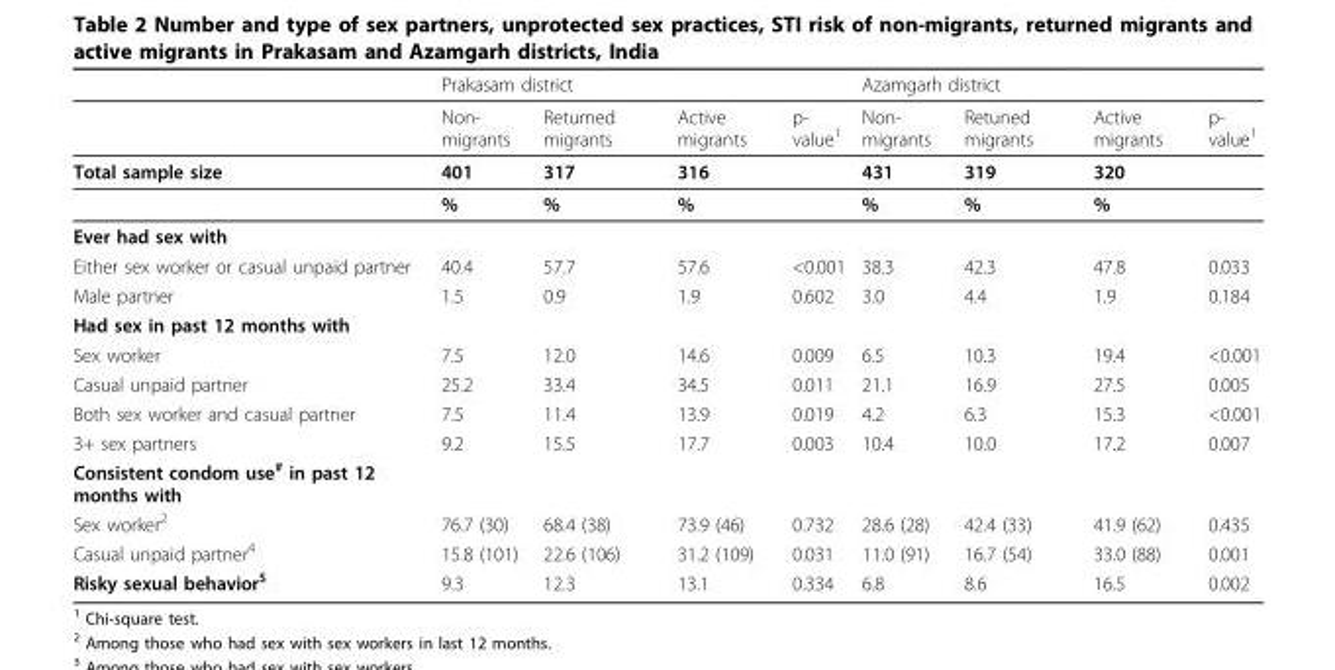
<table><thead><tr><td rowspan="2"></td><td colspan="4">Prakasam district</td><td colspan="4">Azamgarh district</td></tr><tr><td>Non- migrants</td><td>Returned migrants</td><td>Active migrants</td><td>p- value<sup>1</sup></td><td>Non- migrants</td><td>Retuned migrants</td><td>Active migrants</td><td>p- value<sup>1</sup></td></tr></thead><tbody><tr><td rowspan="2">Total sample size</td><td>401</td><td>317</td><td>316</td><td></td><td>431</td><td>319</td><td>320</td><td></td></tr><tr><td>%</td><td>%</td><td>%</td><td></td><td>%</td><td>%</td><td>%</td><td></td></tr><tr><td colspan="9">Ever had sex with</td></tr><tr><td>Either sex worker or casual unpaid partner</td><td>40.4</td><td>57.7</td><td>57.6</td><td>&lt;0.001</td><td>38.3</td><td>42.3</td><td>47.8</td><td>0.033</td></tr><tr><td>Male partner</td><td>1.5</td><td>0.9</td><td>1.9</td><td>0.602</td><td>3.0</td><td>4.4</td><td>1.9</td><td>0.184</td></tr><tr><td colspan="9">Had sex in past 12 months with</td></tr><tr><td>Sex worker</td><td>7.5</td><td>12.0</td><td>14.6</td><td>0.009</td><td>6.5</td><td>10.3</td><td>19.4</td><td>&lt;0.001</td></tr><tr><td>Casual unpaid partner</td><td>25.2</td><td>33.4</td><td>34.5</td><td>0.011</td><td>21.1</td><td>16.9</td><td>27.5</td><td>0.005</td></tr><tr><td>Both sex worker and casual partner</td><td>7.5</td><td>11.4</td><td>13.9</td><td>0.019</td><td>4.2</td><td>6.3</td><td>15.3</td><td>&lt;0.001</td></tr><tr><td>3+ sex partners</td><td>9.2</td><td>15.5</td><td>17.7</td><td>0.003</td><td>10.4</td><td>10.0</td><td>17.2</td><td>0.007</td></tr><tr><td colspan="9">Consistent condom use<sup>#</sup> in past 12 months with</td></tr><tr><td>Sex worker<sup>2</sup></td><td>76.7 (30)</td><td>68.4 (38)</td><td>73.9 (46)</td><td>0.732</td><td>28.6 (28)</td><td>42.4 (33)</td><td>41.9 (62)</td><td>0.435</td></tr><tr><td>Casual unpaid partner<sup>4</sup></td><td>15.8 (101)</td><td>22.6 (106)</td><td>31.2 (109)</td><td>0.031</td><td>11.0 (91)</td><td>16.7 (54)</td><td>33.0 (88)</td><td>0.001</td></tr><tr><td>Risky sexual behavior<sup>$</sup></td><td>9.3</td><td>12.3</td><td>13.1</td><td>0.334</td><td>6.8</td><td>8.6</td><td>16.5</td><td>0.002</td></tr></tbody></table>